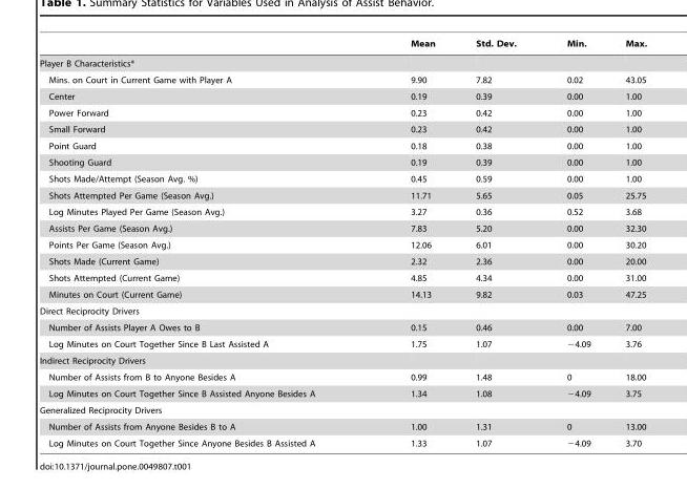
<table><thead><tr><td></td><td>Mean</td><td>Std. Dev.</td><td>Min.</td><td>Max.</td></tr></thead><tbody><tr><td colspan="5">Player B Characteristics*</td></tr><tr><td>Mins. on Court in Current Game with Player A</td><td>9.90</td><td>7.82</td><td>0.02</td><td>43.05</td></tr><tr><td>Center</td><td>0.19</td><td>0.39</td><td>0.00</td><td>1.00</td></tr><tr><td>Power Forward</td><td>0.23</td><td>0.42</td><td>0.00</td><td>1.00</td></tr><tr><td>Small Forward</td><td>0.23</td><td>0.42</td><td>0.00</td><td>1.00</td></tr><tr><td>Point Guard</td><td>0.18</td><td>0.38</td><td>0.00</td><td>1.00</td></tr><tr><td>Shooting Guard</td><td>0.19</td><td>0.39</td><td>0.00</td><td>1.00</td></tr><tr><td>Shots Made/Attempt (Season Avg. %)</td><td>0.45</td><td>0.59</td><td>0.00</td><td>1.00</td></tr><tr><td>Shots Attempted Per Game (Season Avg.)</td><td>11.71</td><td>5.65</td><td>0.05</td><td>25.75</td></tr><tr><td>Log Minutes Played Per Game (Season Avg.)</td><td>3.27</td><td>0.36</td><td>0.52</td><td>3.68</td></tr><tr><td>Assists Per Game (Season Avg.)</td><td>7.83</td><td>5.20</td><td>0.00</td><td>32.30</td></tr><tr><td>Points Per Game (Season Avg.)</td><td>12.06</td><td>6.01</td><td>0.00</td><td>30.20</td></tr><tr><td>Shots Made (Current Game)</td><td>2.32</td><td>2.36</td><td>0.00</td><td>20.00</td></tr><tr><td>Shots Attempted (Current Game)</td><td>4.85</td><td>4.34</td><td>0.00</td><td>31.00</td></tr><tr><td>Minutes on Court (Current Game)</td><td>14.13</td><td>9.82</td><td>0.03</td><td>47.25</td></tr><tr><td colspan="5">Direct Reciprocity Drivers</td></tr><tr><td>Number of Assists Player A Owes to B</td><td>0.15</td><td>0.46</td><td>0.00</td><td>7.00</td></tr><tr><td>Log Minutes on Court Together Since B Last Assisted A</td><td>1.75</td><td>1.07</td><td>−4.09</td><td>3.76</td></tr><tr><td colspan="5">Indirect Reciprocity Drivers</td></tr><tr><td>Number of Assists from B to Anyone Besides A</td><td>0.99</td><td>1.48</td><td>0</td><td>18.00</td></tr><tr><td>Log Minutes on Court Together Since B Assisted Anyone Besides A</td><td>1.34</td><td>1.08</td><td>−4.09</td><td>3.75</td></tr><tr><td colspan="5">Generalized Reciprocity Drivers</td></tr><tr><td>Number of Assists from Anyone Besides B to A</td><td>1.00</td><td>1.31</td><td>0</td><td>13.00</td></tr><tr><td>Log Minutes on Court Together Since Anyone Besides B Assisted A</td><td>1.33</td><td>1.07</td><td>−4.09</td><td>3.70</td></tr></tbody></table>